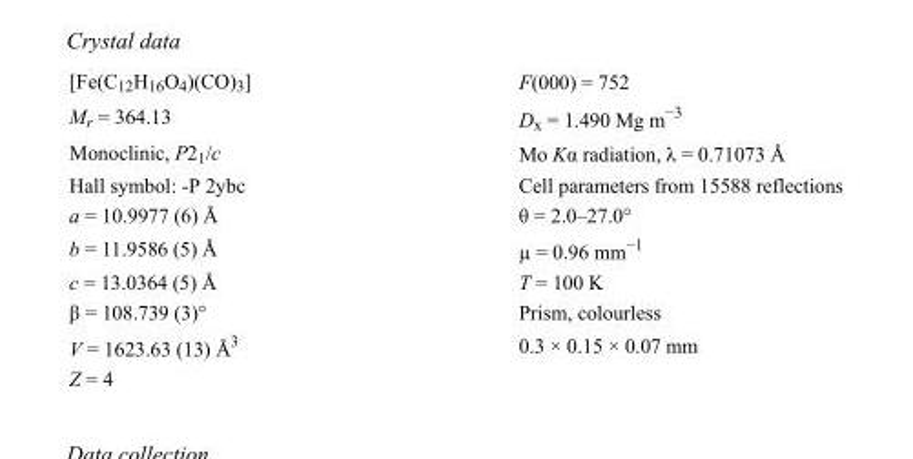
<table><tbody><tr><td>[Fe(C<sub>12</sub>H<sub>16</sub>O<sub>4</sub>)(CO)<sub>3</sub>]</td><td>F(000) = 752</td></tr><tr><td>M<sub>r</sub> = 364.13</td><td>D<sub>x</sub> = 1.490 Mg m<sup>−3</sup></td></tr><tr><td>Monoclinic, P2<sub>1</sub>/c</td><td>Mo Kα radiation, λ = 0.71073 Å</td></tr><tr><td>Hall symbol: -P 2ybc</td><td>Cell parameters from 15588 reflections</td></tr><tr><td>a = 10.9977 (6) Å</td><td>θ = 2.0–27.0°</td></tr><tr><td>b = 11.9586 (5) Å</td><td>µ = 0.96 mm<sup>−1</sup></td></tr><tr><td>c = 13.0364 (5) Å</td><td>T = 100 K</td></tr><tr><td>β = 108.739 (3)°</td><td>Prism, colourless</td></tr><tr><td>V = 1623.63 (13) Å<sup>3</sup></td><td>0.3 × 0.15 × 0.07 mm</td></tr><tr><td>Z = 4</td><td></td></tr></tbody></table>